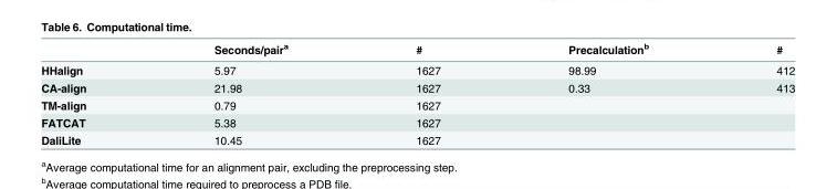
<table><thead><tr><td></td><td>Seconds/pair<sup>a</sup></td><td>#</td><td>Precalculation<sup>b</sup></td><td>#</td></tr></thead><tbody><tr><td>HHalign</td><td>5.97</td><td>1627</td><td>98.99</td><td>412</td></tr><tr><td>CA-align</td><td>21.98</td><td>1627</td><td>0.33</td><td>413</td></tr><tr><td>TM-align</td><td>0.79</td><td>1627</td><td></td><td></td></tr><tr><td>FATCAT</td><td>5.38</td><td>1627</td><td></td><td></td></tr><tr><td>DaliLite</td><td>10.45</td><td>1627</td><td></td><td></td></tr></tbody></table>